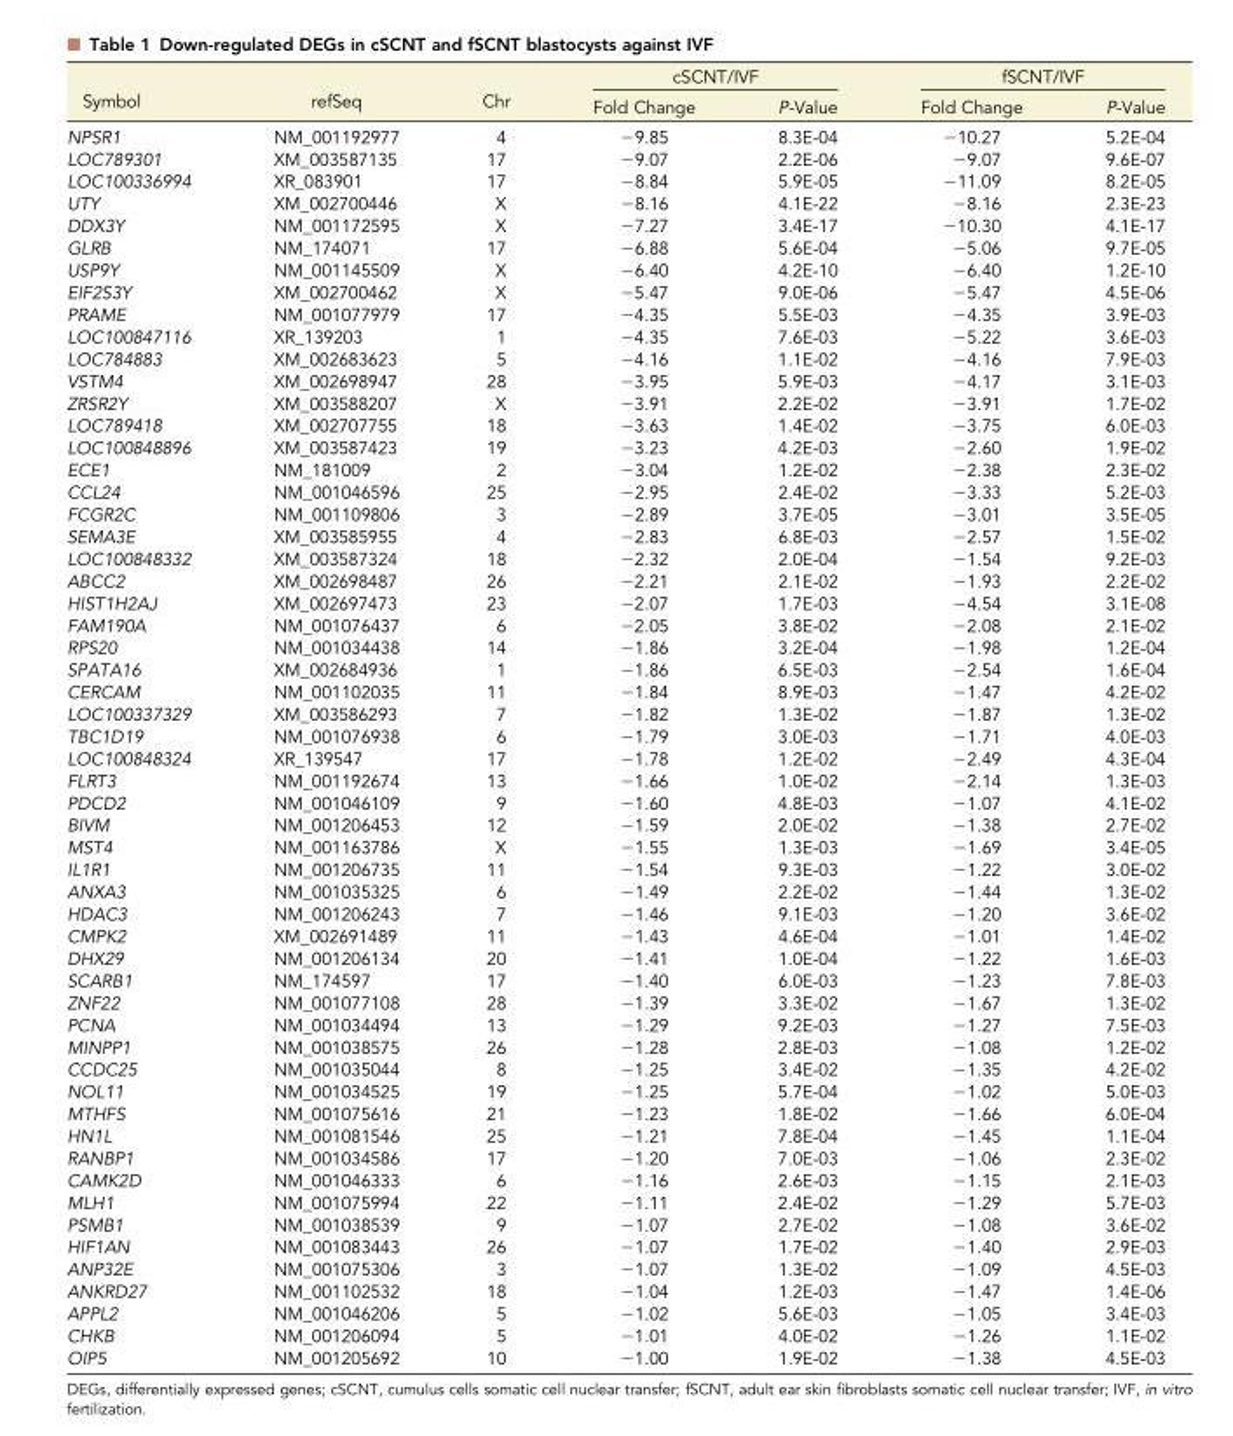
<table><thead><tr><td rowspan="2">Symbol</td><td rowspan="2">refSeq</td><td rowspan="2">Chr</td><td colspan="2">cSCNT/IVF</td><td colspan="2">fSCNT/IVF</td></tr><tr><td>Fold Change</td><td>P-Value</td><td>Fold Change</td><td>P-Value</td></tr></thead><tbody><tr><td>NPSR1</td><td>NM_001192977</td><td>4</td><td>−9.85</td><td>8.3E-04</td><td>−10.27</td><td>5.2E-04</td></tr><tr><td>LOC789301</td><td>XM_003587135</td><td>17</td><td>−9.07</td><td>2.2E-06</td><td>−9.07</td><td>9.6E-07</td></tr><tr><td>LOC100336994</td><td>XR_083901</td><td>17</td><td>−8.84</td><td>5.9E-05</td><td>−11.09</td><td>8.2E-05</td></tr><tr><td>UTY</td><td>XM_002700446</td><td>X</td><td>−8.16</td><td>4.1E-22</td><td>−8.16</td><td>2.3E-23</td></tr><tr><td>DDX3Y</td><td>NM_001172595</td><td>X</td><td>−7.27</td><td>3.4E-17</td><td>−10.30</td><td>4.1E-17</td></tr><tr><td>GLRB</td><td>NM_174071</td><td>17</td><td>−6.88</td><td>5.6E-04</td><td>−5.06</td><td>9.7E-05</td></tr><tr><td>USP9Y</td><td>NM_001145509</td><td>X</td><td>−6.40</td><td>4.2E-10</td><td>−6.40</td><td>1.2E-10</td></tr><tr><td>EIF2S3Y</td><td>XM_002700462</td><td>X</td><td>−5.47</td><td>9.0E-06</td><td>−5.47</td><td>4.5E-06</td></tr><tr><td>PRAME</td><td>NM_001077979</td><td>17</td><td>−4.35</td><td>5.5E-03</td><td>−4.35</td><td>3.9E-03</td></tr><tr><td>LOC100847116</td><td>XR_139203</td><td>1</td><td>−4.35</td><td>7.6E-03</td><td>−5.22</td><td>3.6E-03</td></tr><tr><td>LOC784883</td><td>XM_002683623</td><td>5</td><td>−4.16</td><td>1.1E-02</td><td>−4.16</td><td>7.9E-03</td></tr><tr><td>VSTM4</td><td>XM_002698947</td><td>28</td><td>−3.95</td><td>5.9E-03</td><td>−4.17</td><td>3.1E-03</td></tr><tr><td>ZRSR2Y</td><td>XM_003588207</td><td>X</td><td>−3.91</td><td>2.2E-02</td><td>−3.91</td><td>1.7E-02</td></tr><tr><td>LOC789418</td><td>XM_002707755</td><td>18</td><td>−3.63</td><td>1.4E-02</td><td>−3.75</td><td>6.0E-03</td></tr><tr><td>LOC100848896</td><td>XM_003587423</td><td>19</td><td>−3.23</td><td>4.2E-03</td><td>−2.60</td><td>1.9E-02</td></tr><tr><td>ECE1</td><td>NM_181009</td><td>2</td><td>−3.04</td><td>1.2E-02</td><td>−2.38</td><td>2.3E-02</td></tr><tr><td>CCL24</td><td>NM_001046596</td><td>25</td><td>−2.95</td><td>2.4E-02</td><td>−3.33</td><td>5.2E-03</td></tr><tr><td>FCGR2C</td><td>NM_001109806</td><td>3</td><td>−2.89</td><td>3.7E-05</td><td>−3.01</td><td>3.5E-05</td></tr><tr><td>SEMA3E</td><td>XM_003585955</td><td>4</td><td>−2.83</td><td>6.8E-03</td><td>−2.57</td><td>1.5E-02</td></tr><tr><td>LOC100848332</td><td>XM_003587324</td><td>18</td><td>−2.32</td><td>2.0E-04</td><td>−1.54</td><td>9.2E-03</td></tr><tr><td>ABCC2</td><td>XM_002698487</td><td>26</td><td>−2.21</td><td>2.1E-02</td><td>−1.93</td><td>2.2E-02</td></tr><tr><td>HIST1H2AJ</td><td>XM_002697473</td><td>23</td><td>−2.07</td><td>1.7E-03</td><td>−4.54</td><td>3.1E-08</td></tr><tr><td>FAM190A</td><td>NM_001076437</td><td>6</td><td>−2.05</td><td>3.8E-02</td><td>−2.08</td><td>2.1E-02</td></tr><tr><td>RPS20</td><td>NM_001034438</td><td>14</td><td>−1.86</td><td>3.2E-04</td><td>−1.98</td><td>1.2E-04</td></tr><tr><td>SPATA16</td><td>XM_002684936</td><td>1</td><td>−1.86</td><td>6.5E-03</td><td>−2.54</td><td>1.6E-04</td></tr><tr><td>CERCAM</td><td>NM_001102035</td><td>11</td><td>−1.84</td><td>8.9E-03</td><td>−1.47</td><td>4.2E-02</td></tr><tr><td>LOC100337329</td><td>XM_003586293</td><td>7</td><td>−1.82</td><td>1.3E-02</td><td>−1.87</td><td>1.3E-02</td></tr><tr><td>TBC1D19</td><td>NM_001076938</td><td>6</td><td>−1.79</td><td>3.0E-03</td><td>−1.71</td><td>4.0E-03</td></tr><tr><td>LOC100848324</td><td>XR_139547</td><td>17</td><td>−1.78</td><td>1.2E-02</td><td>−2.49</td><td>4.3E-04</td></tr><tr><td>FLRT3</td><td>NM_001192674</td><td>13</td><td>−1.66</td><td>1.0E-02</td><td>−2.14</td><td>1.3E-03</td></tr><tr><td>PDCD2</td><td>NM_001046109</td><td>9</td><td>−1.60</td><td>4.8E-03</td><td>−1.07</td><td>4.1E-02</td></tr><tr><td>BIVM</td><td>NM_001206453</td><td>12</td><td>−1.59</td><td>2.0E-02</td><td>−1.38</td><td>2.7E-02</td></tr><tr><td>MST4</td><td>NM_001163786</td><td>X</td><td>−1.55</td><td>1.3E-03</td><td>−1.69</td><td>3.4E-05</td></tr><tr><td>IL1R1</td><td>NM_001206735</td><td>11</td><td>−1.54</td><td>9.3E-03</td><td>−1.22</td><td>3.0E-02</td></tr><tr><td>ANXA3</td><td>NM_001035325</td><td>6</td><td>−1.49</td><td>2.2E-02</td><td>−1.44</td><td>1.3E-02</td></tr><tr><td>HDAC3</td><td>NM_001206243</td><td>7</td><td>−1.46</td><td>9.1E-03</td><td>−1.20</td><td>3.6E-02</td></tr><tr><td>CMPK2</td><td>XM_002691489</td><td>11</td><td>−1.43</td><td>4.6E-04</td><td>−1.01</td><td>1.4E-02</td></tr><tr><td>DHX29</td><td>NM_001206134</td><td>20</td><td>−1.41</td><td>1.0E-04</td><td>−1.22</td><td>1.6E-03</td></tr><tr><td>SCARB1</td><td>NM_174597</td><td>17</td><td>−1.40</td><td>6.0E-03</td><td>−1.23</td><td>7.8E-03</td></tr><tr><td>ZNF22</td><td>NM_001077108</td><td>28</td><td>−1.39</td><td>3.3E-02</td><td>−1.67</td><td>1.3E-02</td></tr><tr><td>PCNA</td><td>NM_001034494</td><td>13</td><td>−1.29</td><td>9.2E-03</td><td>−1.27</td><td>7.5E-03</td></tr><tr><td>MINPP1</td><td>NM_001038575</td><td>26</td><td>−1.28</td><td>2.8E-03</td><td>−1.08</td><td>1.2E-02</td></tr><tr><td>CCDC25</td><td>NM_001035044</td><td>8</td><td>−1.25</td><td>3.4E-02</td><td>−1.35</td><td>4.2E-02</td></tr><tr><td>NOL11</td><td>NM_001034525</td><td>19</td><td>−1.25</td><td>5.7E-04</td><td>−1.02</td><td>5.0E-03</td></tr><tr><td>MTHFS</td><td>NM_001075616</td><td>21</td><td>−1.23</td><td>1.8E-02</td><td>−1.66</td><td>6.0E-04</td></tr><tr><td>HN1L</td><td>NM_001081546</td><td>25</td><td>−1.21</td><td>7.8E-04</td><td>−1.45</td><td>1.1E-04</td></tr><tr><td>RANBP1</td><td>NM_001034586</td><td>17</td><td>−1.20</td><td>7.0E-03</td><td>−1.06</td><td>2.3E-02</td></tr><tr><td>CAMK2D</td><td>NM_001046333</td><td>6</td><td>−1.16</td><td>2.6E-03</td><td>−1.15</td><td>2.1E-03</td></tr><tr><td>MLH1</td><td>NM_001075994</td><td>22</td><td>−1.11</td><td>2.4E-02</td><td>−1.29</td><td>5.7E-03</td></tr><tr><td>PSMB1</td><td>NM_001038539</td><td>9</td><td>−1.07</td><td>2.7E-02</td><td>−1.08</td><td>3.6E-02</td></tr><tr><td>HIF1AN</td><td>NM_001083443</td><td>26</td><td>−1.07</td><td>1.7E-02</td><td>−1.40</td><td>2.9E-03</td></tr><tr><td>ANP32E</td><td>NM_001075306</td><td>3</td><td>−1.07</td><td>1.3E-02</td><td>−1.09</td><td>4.5E-03</td></tr><tr><td>ANKRD27</td><td>NM_001102532</td><td>18</td><td>−1.04</td><td>1.2E-03</td><td>−1.47</td><td>1.4E-06</td></tr><tr><td>APPL2</td><td>NM_001046206</td><td>5</td><td>−1.02</td><td>5.6E-03</td><td>−1.05</td><td>3.4E-03</td></tr><tr><td>CHKB</td><td>NM_001206094</td><td>5</td><td>−1.01</td><td>4.0E-02</td><td>−1.26</td><td>1.1E-02</td></tr><tr><td>OIP5</td><td>NM_001205692</td><td>10</td><td>−1.00</td><td>1.9E-02</td><td>−1.38</td><td>4.5E-03</td></tr></tbody></table>